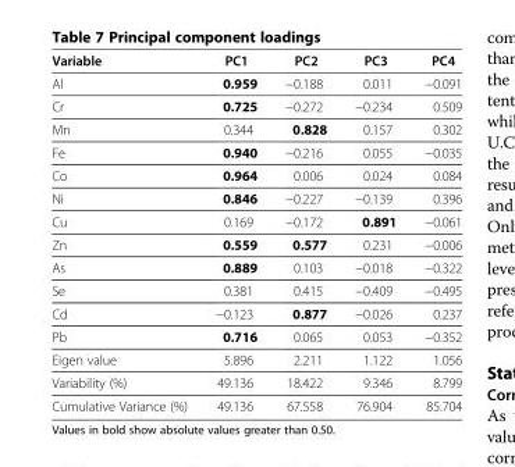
<table><thead><tr><td>Variable</td><td>PC1</td><td>PC2</td><td>PC3</td><td>PC4</td></tr></thead><tbody><tr><td>Al</td><td>0.959</td><td>−0.188</td><td>0.011</td><td>−0.091</td></tr><tr><td>Cr</td><td>0.725</td><td>−0.272</td><td>−0.234</td><td>0.509</td></tr><tr><td>Mn</td><td>0.344</td><td>0.828</td><td>0.157</td><td>0.302</td></tr><tr><td>Fe</td><td>0.940</td><td>−0.216</td><td>0.055</td><td>−0.035</td></tr><tr><td>Co</td><td>0.964</td><td>0.006</td><td>0.024</td><td>0.084</td></tr><tr><td>Ni</td><td>0.846</td><td>−0.227</td><td>−0.139</td><td>0.396</td></tr><tr><td>Cu</td><td>0.169</td><td>−0.172</td><td>0.891</td><td>−0.061</td></tr><tr><td>Zn</td><td>0.559</td><td>0.577</td><td>0.231</td><td>−0.006</td></tr><tr><td>As</td><td>0.889</td><td>0.103</td><td>−0.018</td><td>−0.322</td></tr><tr><td>Se</td><td>0.381</td><td>0.415</td><td>−0.409</td><td>−0.495</td></tr><tr><td>Cd</td><td>−0.123</td><td>0.877</td><td>−0.026</td><td>0.237</td></tr><tr><td>Pb</td><td>0.716</td><td>0.065</td><td>0.053</td><td>−0.352</td></tr><tr><td>Eigen value</td><td>5.896</td><td>2.211</td><td>1.122</td><td>1.056</td></tr><tr><td>Variability (%)</td><td>49.136</td><td>18.422</td><td>9.346</td><td>8.799</td></tr><tr><td>Cumulative Variance (%)</td><td>49.136</td><td>67.558</td><td>76.904</td><td>85.704</td></tr></tbody></table>